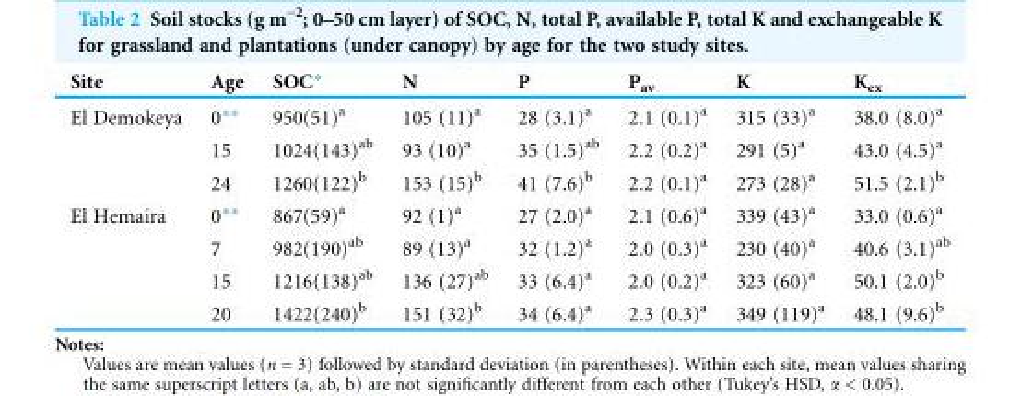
<table><thead><tr><td>Site</td><td>Age</td><td>SOC*</td><td>N</td><td>P</td><td>P<sub>av</sub></td><td>K</td><td>K<sub>ex</sub></td></tr></thead><tbody><tr><td rowspan="3">El Demokeya</td><td>0**</td><td>950(51)<sup>a</sup></td><td>105 (11)<sup>a</sup></td><td>28 (3.1)<sup>a</sup></td><td>2.1 (0.1)<sup>a</sup></td><td>315 (33)<sup>a</sup></td><td>38.0 (8.0)<sup>a</sup></td></tr><tr><td>15</td><td>1024(143)<sup>ab</sup></td><td>93 (10)<sup>a</sup></td><td>35 (1.5)<sup>ab</sup></td><td>2.2 (0.2)<sup>a</sup></td><td>291 (5)<sup>a</sup></td><td>43.0 (4.5)<sup>a</sup></td></tr><tr><td>24</td><td>1260(122)<sup>b</sup></td><td>153 (15)<sup>b</sup></td><td>41 (7.6)<sup>b</sup></td><td>2.2 (0.1)<sup>a</sup></td><td>273 (28)<sup>a</sup></td><td>51.5 (2.1)<sup>b</sup></td></tr><tr><td rowspan="4">El Hemaira</td><td>0**</td><td>867(59)<sup>a</sup></td><td>92 (1)<sup>a</sup></td><td>27 (2.0)<sup>a</sup></td><td>2.1 (0.6)<sup>a</sup></td><td>339 (43)<sup>a</sup></td><td>33.0 (0.6)<sup>a</sup></td></tr><tr><td>7</td><td>982(190)<sup>ab</sup></td><td>89 (13)<sup>a</sup></td><td>32 (1.2)<sup>a</sup></td><td>2.0 (0.3)<sup>a</sup></td><td>230 (40)<sup>a</sup></td><td>40.6 (3.1)<sup>ab</sup></td></tr><tr><td>15</td><td>1216(138)<sup>ab</sup></td><td>136 (27)<sup>ab</sup></td><td>33 (6.4)<sup>a</sup></td><td>2.0 (0.2)<sup>a</sup></td><td>323 (60)<sup>a</sup></td><td>50.1 (2.0)<sup>b</sup></td></tr><tr><td>20</td><td>1422(240)<sup>b</sup></td><td>151 (32)<sup>b</sup></td><td>34 (6.4)<sup>a</sup></td><td>2.3 (0.3)<sup>a</sup></td><td>349 (119)<sup>a</sup></td><td>48.1 (9.6)<sup>b</sup></td></tr></tbody></table>